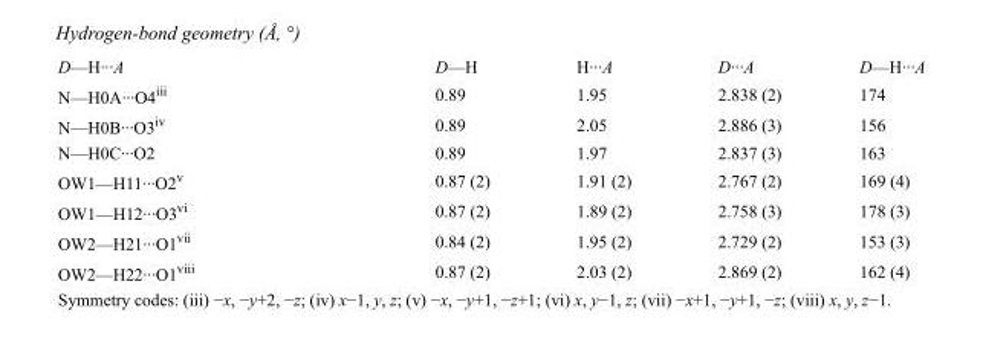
<table><tbody><tr><td>D—H···A</td><td>D—H</td><td>H···A</td><td>D···A</td><td>D—H···A</td></tr><tr><td>N—H0A···O4<sup>iii</sup></td><td>0.89</td><td>1.95</td><td>2.838 (2)</td><td>174</td></tr><tr><td>N—H0B···O3<sup>iv</sup></td><td>0.89</td><td>2.05</td><td>2.886 (3)</td><td>156</td></tr><tr><td>N—H0C···O2</td><td>0.89</td><td>1.97</td><td>2.837 (3)</td><td>163</td></tr><tr><td>OW1—H11···O2<sup>v</sup></td><td>0.87 (2)</td><td>1.91 (2)</td><td>2.767 (2)</td><td>169 (4)</td></tr><tr><td>OW1—H12···O3<sup>vi</sup></td><td>0.87 (2)</td><td>1.89 (2)</td><td>2.758 (3)</td><td>178 (3)</td></tr><tr><td>OW2—H21···O1<sup>vii</sup></td><td>0.84 (2)</td><td>1.95 (2)</td><td>2.729 (2)</td><td>153 (3)</td></tr><tr><td>OW2—H22···O1<sup>viii</sup></td><td>0.87 (2)</td><td>2.03 (2)</td><td>2.869 (2)</td><td>162 (4)</td></tr></tbody></table>